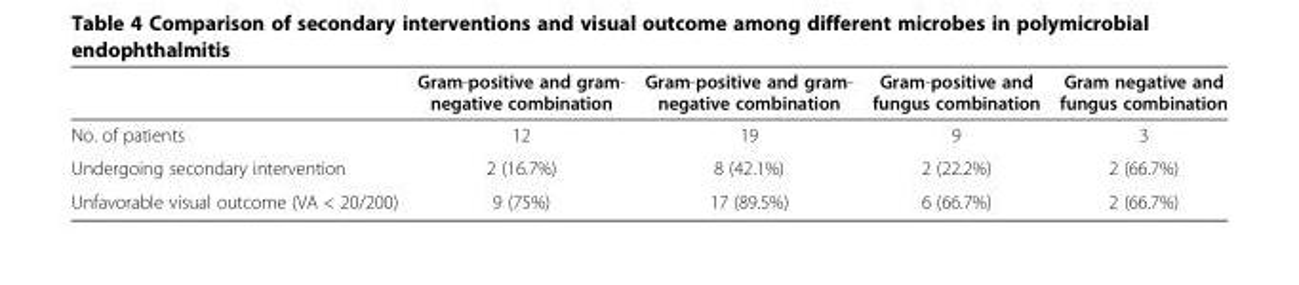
<table><thead><tr><td></td><td>Gram-positive and gram- negative combination</td><td>Gram-positive and gram- negative combination</td><td>Gram-positive and fungus combination</td><td>Gram negative and fungus combination</td></tr></thead><tbody><tr><td>No. of patients</td><td>12</td><td>19</td><td>9</td><td>3</td></tr><tr><td>Undergoing secondary intervention</td><td>2 (16.7%)</td><td>8 (42.1%)</td><td>2 (22.2%)</td><td>2 (66.7%)</td></tr><tr><td>Unfavorable visual outcome (VA &lt; 20/200)</td><td>9 (75%)</td><td>17 (89.5%)</td><td>6 (66.7%)</td><td>2 (66.7%)</td></tr></tbody></table>